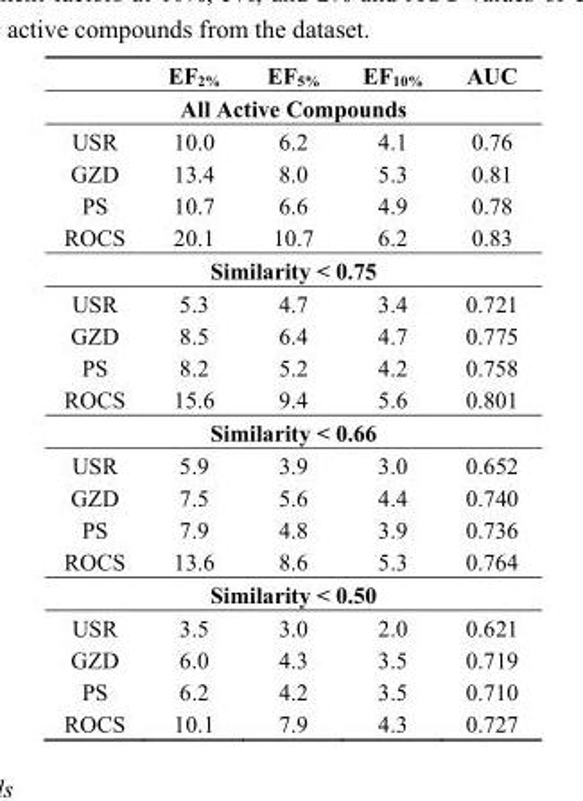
<table><thead><tr><td></td><td>EF<sub>2%</sub></td><td>EF<sub>5%</sub></td><td>EF<sub>10%</sub></td><td>AUC</td></tr></thead><tbody><tr><td colspan="5">All Active Compounds</td></tr><tr><td>USR</td><td>10.0</td><td>6.2</td><td>4.1</td><td>0.76</td></tr><tr><td>GZD</td><td>13.4</td><td>8.0</td><td>5.3</td><td>0.81</td></tr><tr><td>PS</td><td>10.7</td><td>6.6</td><td>4.9</td><td>0.78</td></tr><tr><td>ROCS</td><td>20.1</td><td>10.7</td><td>6.2</td><td>0.83</td></tr><tr><td colspan="5">Similarity &lt; 0.75</td></tr><tr><td>USR</td><td>5.3</td><td>4.7</td><td>3.4</td><td>0.721</td></tr><tr><td>GZD</td><td>8.5</td><td>6.4</td><td>4.7</td><td>0.775</td></tr><tr><td>PS</td><td>8.2</td><td>5.2</td><td>4.2</td><td>0.758</td></tr><tr><td>ROCS</td><td>15.6</td><td>9.4</td><td>5.6</td><td>0.801</td></tr><tr><td colspan="5">Similarity &lt; 0.66</td></tr><tr><td>USR</td><td>5.9</td><td>3.9</td><td>3.0</td><td>0.652</td></tr><tr><td>GZD</td><td>7.5</td><td>5.6</td><td>4.4</td><td>0.740</td></tr><tr><td>PS</td><td>7.9</td><td>4.8</td><td>3.9</td><td>0.736</td></tr><tr><td>ROCS</td><td>13.6</td><td>8.6</td><td>5.3</td><td>0.764</td></tr><tr><td colspan="5">Similarity &lt; 0.50</td></tr><tr><td>USR</td><td>3.5</td><td>3.0</td><td>2.0</td><td>0.621</td></tr><tr><td>GZD</td><td>6.0</td><td>4.3</td><td>3.5</td><td>0.719</td></tr><tr><td>PS</td><td>6.2</td><td>4.2</td><td>3.5</td><td>0.710</td></tr><tr><td>ROCS</td><td>10.1</td><td>7.9</td><td>4.3</td><td>0.727</td></tr></tbody></table>